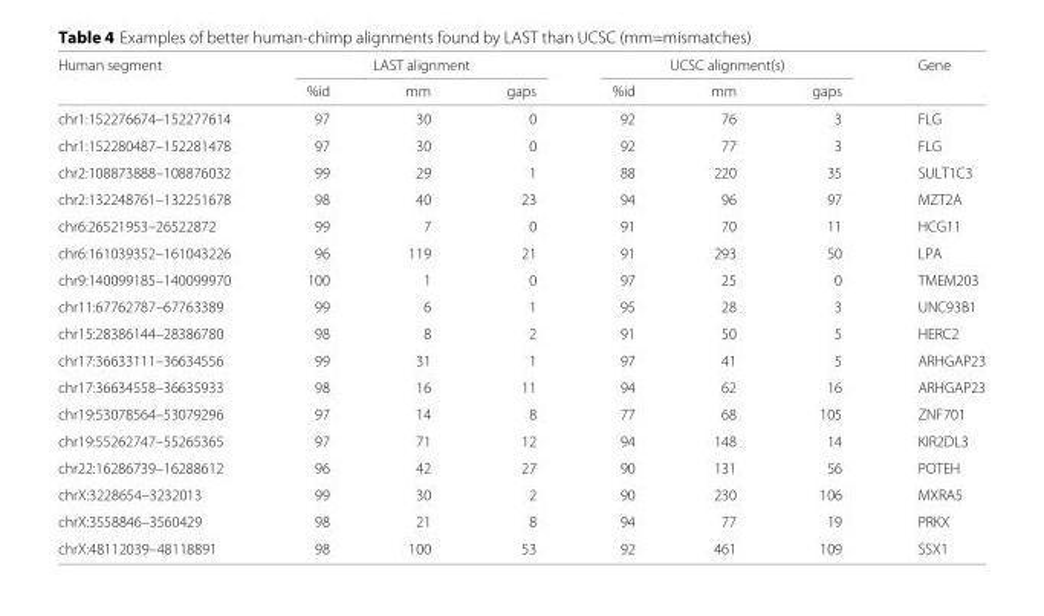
<table><thead><tr><td rowspan="2">Human segment</td><td colspan="3">LAST alignment</td><td colspan="3">UCSC alignment(s)</td><td rowspan="2">Gene</td></tr><tr><td>%id</td><td>mm</td><td>gaps</td><td>%id</td><td>mm</td><td>gaps</td></tr></thead><tbody><tr><td>chr1:152276674–152277614</td><td>97</td><td>30</td><td>0</td><td>92</td><td>76</td><td>3</td><td>FLG</td></tr><tr><td>chr1:152280487–152281478</td><td>97</td><td>30</td><td>0</td><td>92</td><td>77</td><td>3</td><td>FLG</td></tr><tr><td>chr2:108873888–108876032</td><td>99</td><td>29</td><td>1</td><td>88</td><td>220</td><td>35</td><td>SULT1C3</td></tr><tr><td>chr2:132248761–132251678</td><td>98</td><td>40</td><td>23</td><td>94</td><td>96</td><td>97</td><td>MZT2A</td></tr><tr><td>chr6:26521953–26522872</td><td>99</td><td>7</td><td>0</td><td>91</td><td>70</td><td>11</td><td>HCG11</td></tr><tr><td>chr6:161039352–161043226</td><td>96</td><td>119</td><td>21</td><td>91</td><td>293</td><td>50</td><td>LPA</td></tr><tr><td>chr9:140099185–140099970</td><td>100</td><td>1</td><td>0</td><td>97</td><td>25</td><td>0</td><td>TMEM203</td></tr><tr><td>chr11:67762787–67763389</td><td>99</td><td>6</td><td>1</td><td>95</td><td>28</td><td>3</td><td>UNC93B1</td></tr><tr><td>chr15:28386144–28386780</td><td>98</td><td>8</td><td>2</td><td>91</td><td>50</td><td>5</td><td>HERC2</td></tr><tr><td>chr17:36633111–36634556</td><td>99</td><td>31</td><td>1</td><td>97</td><td>41</td><td>5</td><td>ARHGAP23</td></tr><tr><td>chr17:36634558–36635933</td><td>98</td><td>16</td><td>11</td><td>94</td><td>62</td><td>16</td><td>ARHGAP23</td></tr><tr><td>chr19:53078564–53079296</td><td>97</td><td>14</td><td>8</td><td>77</td><td>68</td><td>105</td><td>ZNF701</td></tr><tr><td>chr19:55262747–55265365</td><td>97</td><td>71</td><td>12</td><td>94</td><td>148</td><td>14</td><td>KIR2DL3</td></tr><tr><td>chr22:16286739–16288612</td><td>96</td><td>42</td><td>27</td><td>90</td><td>131</td><td>56</td><td>POTEH</td></tr><tr><td>chrX:3228654–3232013</td><td>99</td><td>30</td><td>2</td><td>90</td><td>230</td><td>106</td><td>MXRA5</td></tr><tr><td>chrX:3558846–3560429</td><td>98</td><td>21</td><td>8</td><td>94</td><td>77</td><td>19</td><td>PRKX</td></tr><tr><td>chrX:48112039–48118891</td><td>98</td><td>100</td><td>53</td><td>92</td><td>461</td><td>109</td><td>SSX1</td></tr></tbody></table>